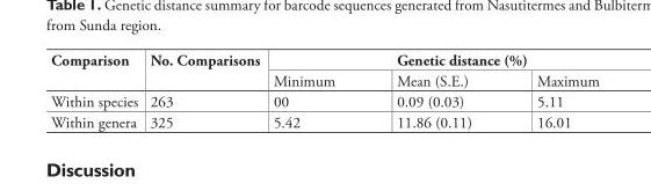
<table><thead><tr><td rowspan="2">Comparison</td><td rowspan="2">No. Comparisons</td><td rowspan="2">Minimum</td><td rowspan="2">Genetic distance (%) Mean (S.E.)</td><td rowspan="2">Maximum</td></tr><tr></tr></thead><tbody><tr><td>Within species</td><td>263</td><td>00</td><td>0.09 (0.03)</td><td>5.11</td></tr><tr><td>Within genera</td><td>325</td><td>5.42</td><td>11.86 (0.11)</td><td>16.01</td></tr></tbody></table>